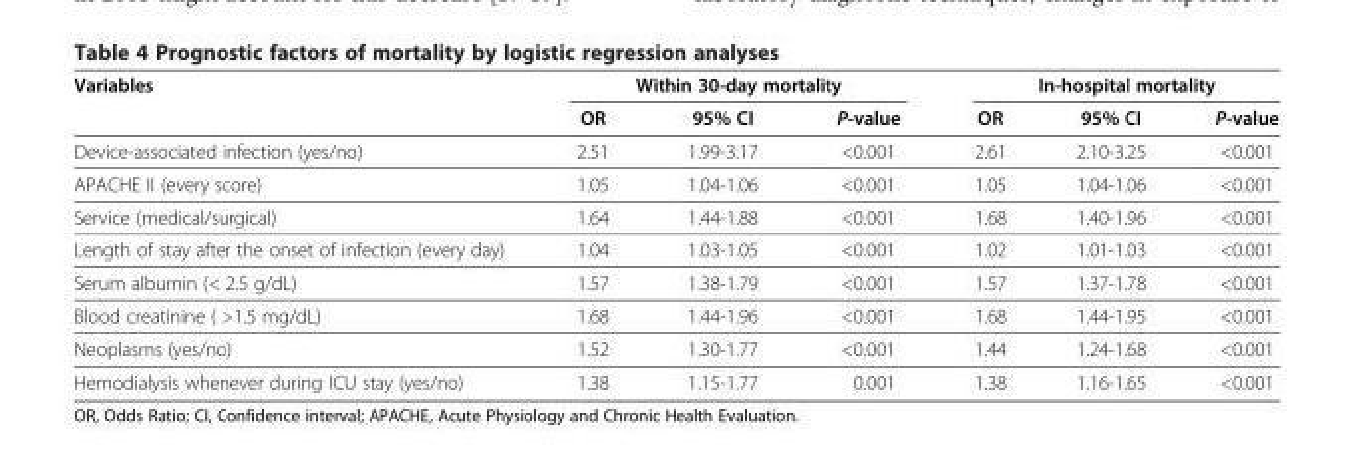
<table><thead><tr><td rowspan="2">Variables</td><td colspan="3">Within 30-day mortality</td><td colspan="3">In-hospital mortality</td></tr><tr><td>OR</td><td>95% CI</td><td>P-value</td><td>OR</td><td>95% CI</td><td>P-value</td></tr></thead><tbody><tr><td>Device-associated infection (yes/no)</td><td>2.51</td><td>1.99-3.17</td><td>&lt;0.001</td><td>2.61</td><td>2.10-3.25</td><td>&lt;0.001</td></tr><tr><td>APACHE II (every score)</td><td>1.05</td><td>1.04-1.06</td><td>&lt;0.001</td><td>1.05</td><td>1.04-1.06</td><td>&lt;0.001</td></tr><tr><td>Service (medical/surgical)</td><td>1.64</td><td>1.44-1.88</td><td>&lt;0.001</td><td>1.68</td><td>1.40-1.96</td><td>&lt;0.001</td></tr><tr><td>Length of stay after the onset of infection (every day)</td><td>1.04</td><td>1.03-1.05</td><td>&lt;0.001</td><td>1.02</td><td>1.01-1.03</td><td>&lt;0.001</td></tr><tr><td>Serum albumin (&lt; 2.5 g/dL)</td><td>1.57</td><td>1.38-1.79</td><td>&lt;0.001</td><td>1.57</td><td>1.37-1.78</td><td>&lt;0.001</td></tr><tr><td>Blood creatinine ( &gt;1.5 mg/dL)</td><td>1.68</td><td>1.44-1.96</td><td>&lt;0.001</td><td>1.68</td><td>1.44-1.95</td><td>&lt;0.001</td></tr><tr><td>Neoplasms (yes/no)</td><td>1.52</td><td>1.30-1.77</td><td>&lt;0.001</td><td>1.44</td><td>1.24-1.68</td><td>&lt;0.001</td></tr><tr><td>Hemodialysis whenever during ICU stay (yes/no)</td><td>1.38</td><td>1.15-1.77</td><td>0.001</td><td>1.38</td><td>1.16-1.65</td><td>&lt;0.001</td></tr></tbody></table>